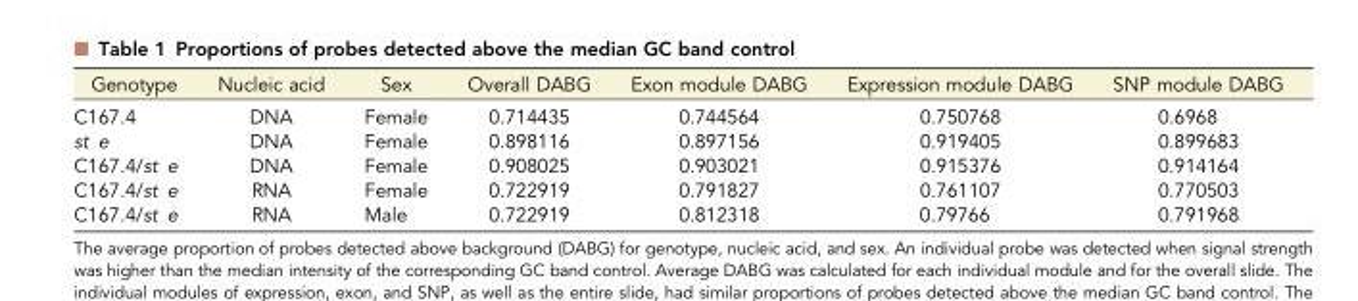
<table><thead><tr><td>Genotype</td><td>Nucleic acid</td><td>Sex</td><td>Overall DABG</td><td>Exon module DABG</td><td>Expression module DABG</td><td>SNP module DABG</td></tr></thead><tbody><tr><td>C167.4</td><td>DNA</td><td>Female</td><td>0.714435</td><td>0.744564</td><td>0.750768</td><td>0.6968</td></tr><tr><td>st e</td><td>DNA</td><td>Female</td><td>0.898116</td><td>0.897156</td><td>0.919405</td><td>0.899683</td></tr><tr><td>C167.4/st e</td><td>DNA</td><td>Female</td><td>0.908025</td><td>0.903021</td><td>0.915376</td><td>0.914164</td></tr><tr><td>C167.4/st e</td><td>RNA</td><td>Female</td><td>0.722919</td><td>0.791827</td><td>0.761107</td><td>0.770503</td></tr><tr><td>C167.4/st e</td><td>RNA</td><td>Male</td><td>0.722919</td><td>0.812318</td><td>0.79766</td><td>0.791968</td></tr></tbody></table>